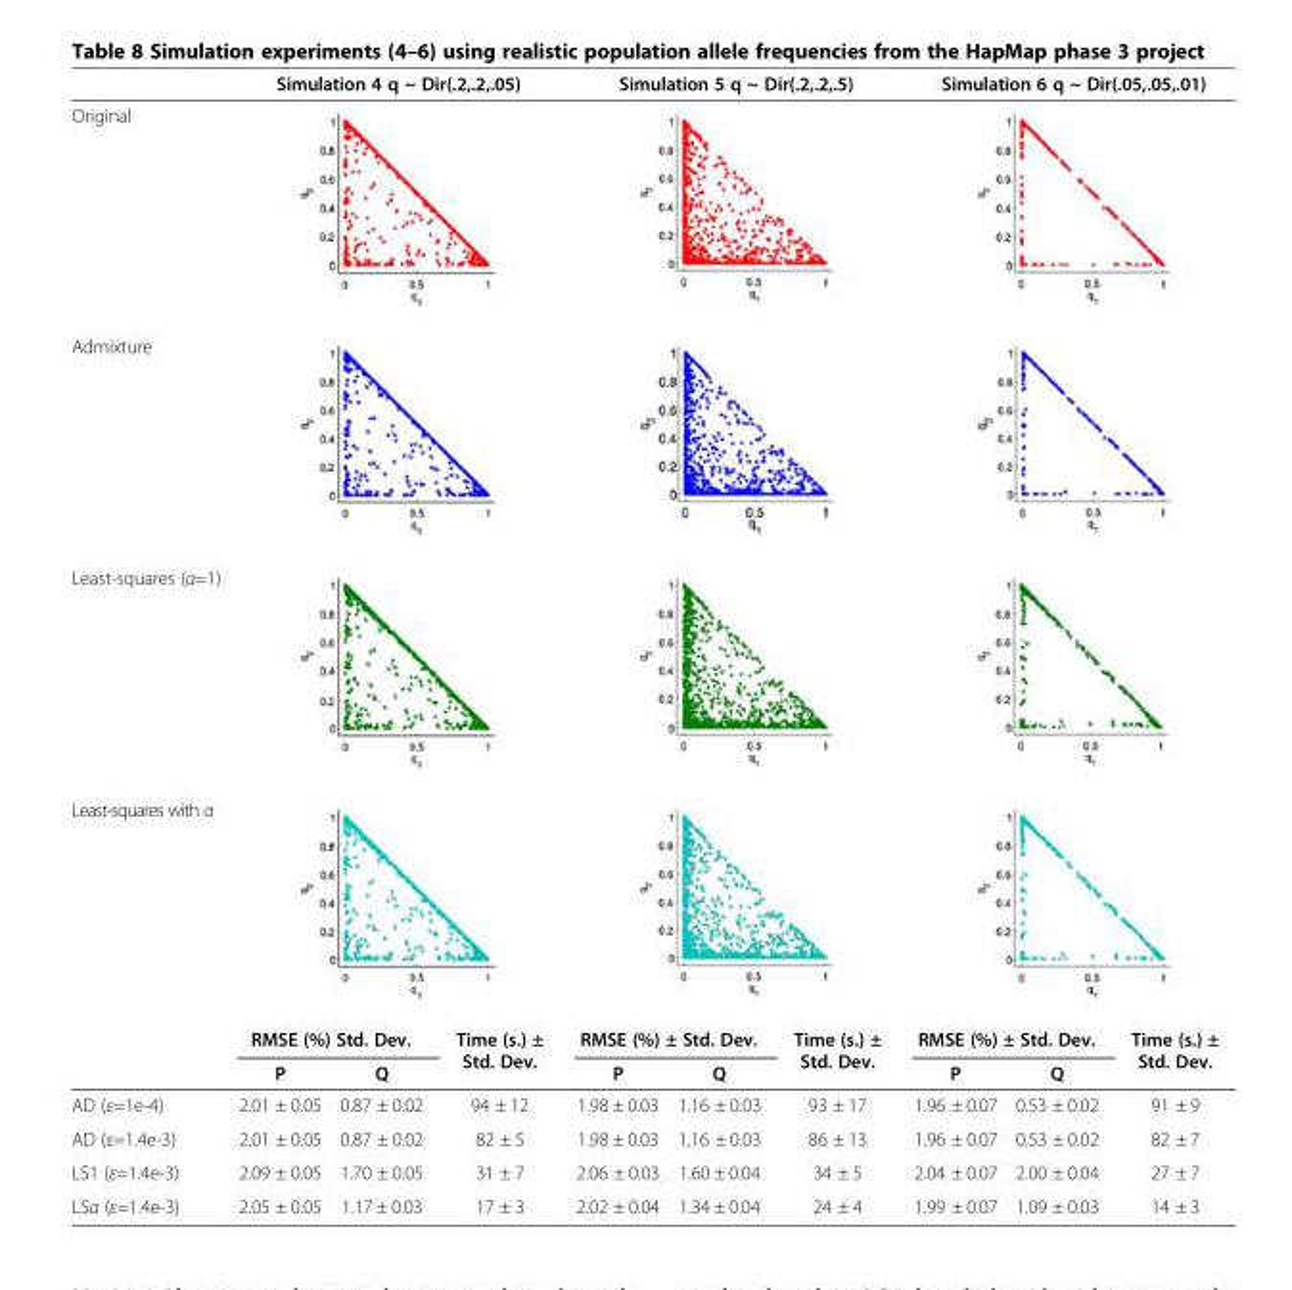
<table><thead><tr><td rowspan="2">Original</td><td colspan="3">Simulation 4 q ~ Dir(.2,.2,.05)</td><td colspan="3">Simulation 5 q ~ Dir(.2,.2,.5)</td><td colspan="3">Simulation 6 q ~ Dir(.05,.05,.01)</td></tr><tr><td></td><td></td><td></td><td></td><td></td><td></td><td></td><td></td><td></td></tr></thead><tbody><tr><td colspan="10">Admixture</td></tr><tr><td colspan="10">Least-squares (α=1)</td></tr><tr><td colspan="10">Least-squares with α</td></tr><tr><td></td><td colspan="2">RMSE (%) Std. Dev.</td><td rowspan="2">Time (s.) ± Std. Dev.</td><td colspan="2">RMSE (%) ± Std. Dev.</td><td rowspan="2">Time (s.) ± Std. Dev.</td><td colspan="2">RMSE (%) ± Std. Dev.</td><td rowspan="2">Time (s.) ± Std. Dev.</td></tr><tr><td></td><td>P</td><td>Q</td><td>P</td><td>Q</td><td>P</td><td>Q</td></tr><tr><td>AD (ε=1e-4)</td><td>2.01 ± 0.05</td><td>0.87 ± 0.02</td><td>94 ± 12</td><td>1.98 ± 0.03</td><td>1.16 ± 0.03</td><td>93 ± 17</td><td>1.96 ± 0.07</td><td>0.53 ± 0.02</td><td>91 ± 9</td></tr><tr><td>AD (ε=1.4e-3)</td><td>2.01 ± 0.05</td><td>0.87 ± 0.02</td><td>82 ± 5</td><td>1.98 ± 0.03</td><td>1.16 ± 0.03</td><td>86 ± 13</td><td>1.96 ± 0.07</td><td>0.53 ± 0.02</td><td>82 ± 7</td></tr><tr><td>LS1 (ε=1.4e-3)</td><td>2.09 ± 0.05</td><td>1.70 ± 0.05</td><td>31 ± 7</td><td>2.06 ± 0.03</td><td>1.60 ± 0.04</td><td>34 ± 5</td><td>2.04 ± 0.07</td><td>2.00 ± 0.04</td><td>27 ± 7</td></tr><tr><td>LSα (ε=1.4e-3)</td><td>2.05 ± 0.05</td><td>1.17 ± 0.03</td><td>17 ± 3</td><td>2.02 ± 0.04</td><td>1.34 ± 0.04</td><td>24 ± 4</td><td>1.99 ± 0.07</td><td>1.09 ± 0.03</td><td>14 ± 3</td></tr></tbody></table>